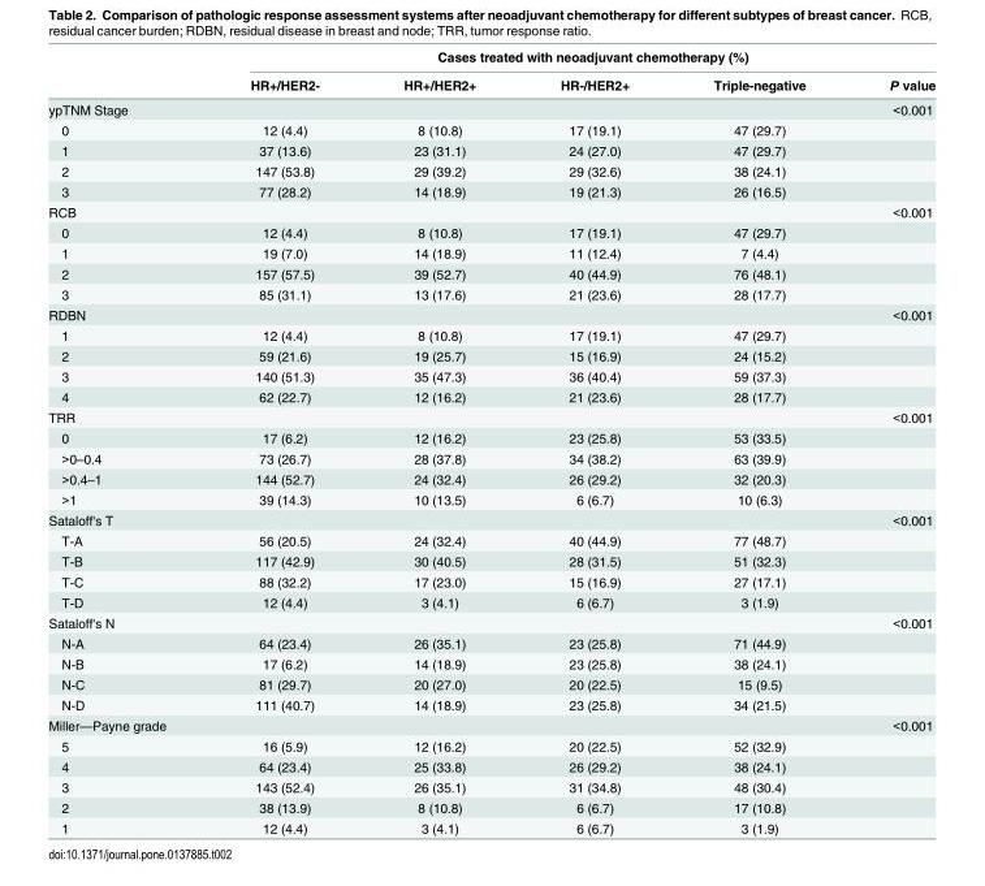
<table><thead><tr><td rowspan="2"></td><td colspan="5">Cases treated with neoadjuvant chemotherapy (%)</td></tr><tr><td>HR+/HER2-</td><td>HR+/HER2+</td><td>HR-/HER2+</td><td>Triple-negative</td><td>P value</td></tr></thead><tbody><tr><td>ypTNM Stage</td><td></td><td></td><td></td><td></td><td>&lt;0.001</td></tr><tr><td>0</td><td>12 (4.4)</td><td>8 (10.8)</td><td>17 (19.1)</td><td>47 (29.7)</td><td></td></tr><tr><td>1</td><td>37 (13.6)</td><td>23 (31.1)</td><td>24 (27.0)</td><td>47 (29.7)</td><td></td></tr><tr><td>2</td><td>147 (53.8)</td><td>29 (39.2)</td><td>29 (32.6)</td><td>38 (24.1)</td><td></td></tr><tr><td>3</td><td>77 (28.2)</td><td>14 (18.9)</td><td>19 (21.3)</td><td>26 (16.5)</td><td></td></tr><tr><td>RCB</td><td></td><td></td><td></td><td></td><td>&lt;0.001</td></tr><tr><td>0</td><td>12 (4.4)</td><td>8 (10.8)</td><td>17 (19.1)</td><td>47 (29.7)</td><td></td></tr><tr><td>1</td><td>19 (7.0)</td><td>14 (18.9)</td><td>11 (12.4)</td><td>7 (4.4)</td><td></td></tr><tr><td>2</td><td>157 (57.5)</td><td>39 (52.7)</td><td>40 (44.9)</td><td>76 (48.1)</td><td></td></tr><tr><td>3</td><td>85 (31.1)</td><td>13 (17.6)</td><td>21 (23.6)</td><td>28 (17.7)</td><td></td></tr><tr><td>RDBN</td><td></td><td></td><td></td><td></td><td>&lt;0.001</td></tr><tr><td>1</td><td>12 (4.4)</td><td>8 (10.8)</td><td>17 (19.1)</td><td>47 (29.7)</td><td></td></tr><tr><td>2</td><td>59 (21.6)</td><td>19 (25.7)</td><td>15 (16.9)</td><td>24 (15.2)</td><td></td></tr><tr><td>3</td><td>140 (51.3)</td><td>35 (47.3)</td><td>36 (40.4)</td><td>59 (37.3)</td><td></td></tr><tr><td>4</td><td>62 (22.7)</td><td>12 (16.2)</td><td>21 (23.6)</td><td>28 (17.7)</td><td></td></tr><tr><td>TRR</td><td></td><td></td><td></td><td></td><td>&lt;0.001</td></tr><tr><td>0</td><td>17 (6.2)</td><td>12 (16.2)</td><td>23 (25.8)</td><td>53 (33.5)</td><td></td></tr><tr><td>&gt;0–0.4</td><td>73 (26.7)</td><td>28 (37.8)</td><td>34 (38.2)</td><td>63 (39.9)</td><td></td></tr><tr><td>&gt;0.4–1</td><td>144 (52.7)</td><td>24 (32.4)</td><td>26 (29.2)</td><td>32 (20.3)</td><td></td></tr><tr><td>&gt;1</td><td>39 (14.3)</td><td>10 (13.5)</td><td>6 (6.7)</td><td>10 (6.3)</td><td></td></tr><tr><td>Sataloff&#x27;s T</td><td></td><td></td><td></td><td></td><td>&lt;0.001</td></tr><tr><td>T-A</td><td>56 (20.5)</td><td>24 (32.4)</td><td>40 (44.9)</td><td>77 (48.7)</td><td></td></tr><tr><td>T-B</td><td>117 (42.9)</td><td>30 (40.5)</td><td>28 (31.5)</td><td>51 (32.3)</td><td></td></tr><tr><td>T-C</td><td>88 (32.2)</td><td>17 (23.0)</td><td>15 (16.9)</td><td>27 (17.1)</td><td></td></tr><tr><td>T-D</td><td>12 (4.4)</td><td>3 (4.1)</td><td>6 (6.7)</td><td>3 (1.9)</td><td></td></tr><tr><td>Sataloff&#x27;s N</td><td></td><td></td><td></td><td></td><td>&lt;0.001</td></tr><tr><td>N-A</td><td>64 (23.4)</td><td>26 (35.1)</td><td>23 (25.8)</td><td>71 (44.9)</td><td></td></tr><tr><td>N-B</td><td>17 (6.2)</td><td>14 (18.9)</td><td>23 (25.8)</td><td>38 (24.1)</td><td></td></tr><tr><td>N-C</td><td>81 (29.7)</td><td>20 (27.0)</td><td>20 (22.5)</td><td>15 (9.5)</td><td></td></tr><tr><td>N-D</td><td>111 (40.7)</td><td>14 (18.9)</td><td>23 (25.8)</td><td>34 (21.5)</td><td></td></tr><tr><td>Miller—Payne grade</td><td></td><td></td><td></td><td></td><td>&lt;0.001</td></tr><tr><td>5</td><td>16 (5.9)</td><td>12 (16.2)</td><td>20 (22.5)</td><td>52 (32.9)</td><td></td></tr><tr><td>4</td><td>64 (23.4)</td><td>25 (33.8)</td><td>26 (29.2)</td><td>38 (24.1)</td><td></td></tr><tr><td>3</td><td>143 (52.4)</td><td>26 (35.1)</td><td>31 (34.8)</td><td>48 (30.4)</td><td></td></tr><tr><td>2</td><td>38 (13.9)</td><td>8 (10.8)</td><td>6 (6.7)</td><td>17 (10.8)</td><td></td></tr><tr><td>1</td><td>12 (4.4)</td><td>3 (4.1)</td><td>6 (6.7)</td><td>3 (1.9)</td><td></td></tr></tbody></table>